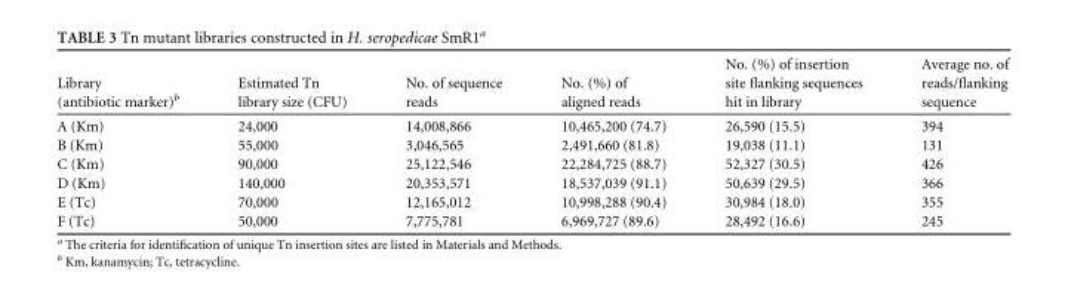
<table><thead><tr><td>Library (antibiotic marker)<sup>b</sup></td><td>Estimated Tn library size (CFU)</td><td>No. of sequence reads</td><td>No. (%) of aligned reads</td><td>No. (%) of insertion site flanking sequences hit in library</td><td>Average no. of reads/flanking sequence</td></tr></thead><tbody><tr><td>A (Km)</td><td>24,000</td><td>14,008,866</td><td>10,465,200 (74.7)</td><td>26,590 (15.5)</td><td>394</td></tr><tr><td>B (Km)</td><td>55,000</td><td>3,046,565</td><td>2,491,660 (81.8)</td><td>19,038 (11.1)</td><td>131</td></tr><tr><td>C (Km)</td><td>90,000</td><td>25,122,546</td><td>22,284,725 (88.7)</td><td>52,327 (30.5)</td><td>426</td></tr><tr><td>D (Km)</td><td>140,000</td><td>20,353,571</td><td>18,537,039 (91.1)</td><td>50,639 (29.5)</td><td>366</td></tr><tr><td>E (Tc)</td><td>70,000</td><td>12,165,012</td><td>10,998,288 (90.4)</td><td>30,984 (18.0)</td><td>355</td></tr><tr><td>F (Tc)</td><td>50,000</td><td>7,775,781</td><td>6,969,727 (89.6)</td><td>28,492 (16.6)</td><td>245</td></tr></tbody></table>